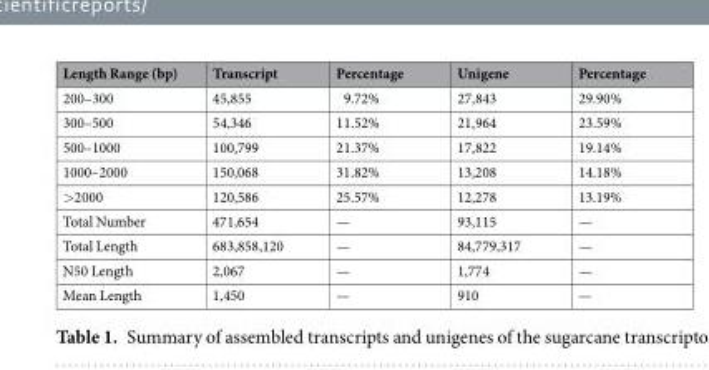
<table><thead><tr><td>Length Range (bp)</td><td>Transcript</td><td>Percentage</td><td>Unigene</td><td>Percentage</td></tr></thead><tbody><tr><td>200–300</td><td>45,855</td><td>9.72%</td><td>27,843</td><td>29.90%</td></tr><tr><td>300–500</td><td>54,346</td><td>11.52%</td><td>21,964</td><td>23.59%</td></tr><tr><td>500–1000</td><td>100,799</td><td>21.37%</td><td>17,822</td><td>19.14%</td></tr><tr><td>1000–2000</td><td>150,068</td><td>31.82%</td><td>13,208</td><td>14.18%</td></tr><tr><td>&gt;2000</td><td>120,586</td><td>25.57%</td><td>12,278</td><td>13.19%</td></tr><tr><td>Total Number</td><td>471,654</td><td>—</td><td>93,115</td><td>—</td></tr><tr><td>Total Length</td><td>683,858,120</td><td>—</td><td>84,779,317</td><td>—</td></tr><tr><td>N50 Length</td><td>2,067</td><td>—</td><td>1,774</td><td>—</td></tr><tr><td>Mean Length</td><td>1,450</td><td>—</td><td>910</td><td>—</td></tr></tbody></table>